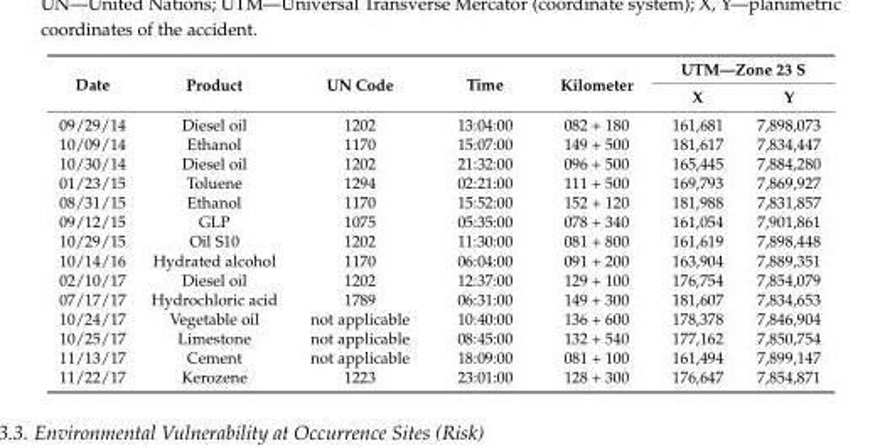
<table><thead><tr><td rowspan="2">Date</td><td rowspan="2">Product</td><td rowspan="2">UN Code</td><td rowspan="2">Time</td><td rowspan="2">Kilometer</td><td colspan="2">UTM—Zone 23 S</td></tr><tr><td>X</td><td>Y</td></tr></thead><tbody><tr><td>09/29/14</td><td>Diesel oil</td><td>1202</td><td>13:04:00</td><td>082 + 180</td><td>161,681</td><td>7,898,073</td></tr><tr><td>10/09/14</td><td>Ethanol</td><td>1170</td><td>15:07:00</td><td>149 + 500</td><td>181,617</td><td>7,834,447</td></tr><tr><td>10/30/14</td><td>Diesel oil</td><td>1202</td><td>21:32:00</td><td>096 + 500</td><td>165,445</td><td>7,884,280</td></tr><tr><td>01/23/15</td><td>Toluene</td><td>1294</td><td>02:21:00</td><td>111 + 500</td><td>169,793</td><td>7,869,927</td></tr><tr><td>08/31/15</td><td>Ethanol</td><td>1170</td><td>15:52:00</td><td>152 + 120</td><td>181,988</td><td>7,831,857</td></tr><tr><td>09/12/15</td><td>GLP</td><td>1075</td><td>05:35:00</td><td>078 + 340</td><td>161,054</td><td>7,901,861</td></tr><tr><td>10/29/15</td><td>Oil S10</td><td>1202</td><td>11:30:00</td><td>081 + 800</td><td>161,619</td><td>7,898,448</td></tr><tr><td>10/14/16</td><td>Hydrated alcohol</td><td>1170</td><td>06:04:00</td><td>091 + 200</td><td>163,904</td><td>7,889,351</td></tr><tr><td>02/10/17</td><td>Diesel oil</td><td>1202</td><td>12:37:00</td><td>129 + 100</td><td>176,754</td><td>7,854,079</td></tr><tr><td>07/17/17</td><td>Hydrochloric acid</td><td>1789</td><td>06:31:00</td><td>149 + 300</td><td>181,607</td><td>7,834,653</td></tr><tr><td>10/24/17</td><td>Vegetable oil</td><td>not applicable</td><td>10:40:00</td><td>136 + 600</td><td>178,378</td><td>7,846,904</td></tr><tr><td>10/25/17</td><td>Limestone</td><td>not applicable</td><td>08:45:00</td><td>132 + 540</td><td>177,162</td><td>7,850,754</td></tr><tr><td>11/13/17</td><td>Cement</td><td>not applicable</td><td>18:09:00</td><td>081 + 100</td><td>161,494</td><td>7,899,147</td></tr><tr><td>11/22/17</td><td>Kerozene</td><td>1223</td><td>23:01:00</td><td>128 + 300</td><td>176,647</td><td>7,854,871</td></tr></tbody></table>